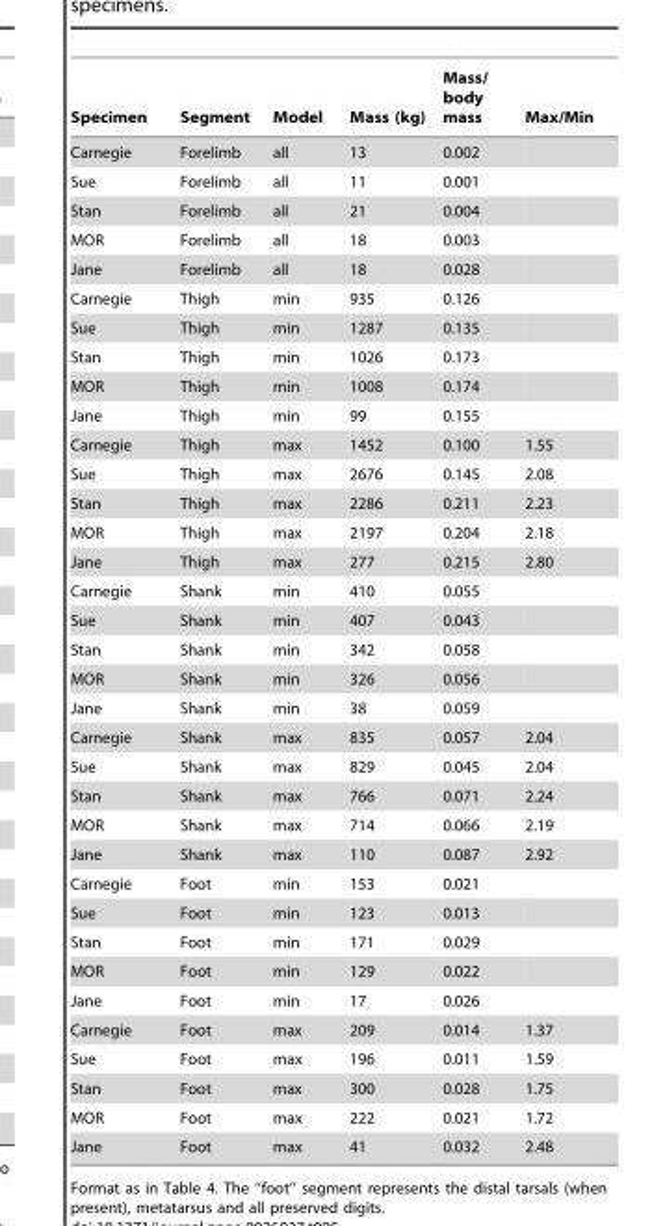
<table><thead><tr><td>Specimen</td><td>Segment</td><td>Model</td><td>Mass (kg)</td><td>Mass/ body mass</td><td>Max/Min</td></tr></thead><tbody><tr><td>Carnegie</td><td>Forelimb</td><td>all</td><td>13</td><td>0.002</td><td></td></tr><tr><td>Sue</td><td>Forelimb</td><td>all</td><td>11</td><td>0.001</td><td></td></tr><tr><td>Stan</td><td>Forelimb</td><td>all</td><td>21</td><td>0.004</td><td></td></tr><tr><td>MOR</td><td>Forelimb</td><td>all</td><td>18</td><td>0.003</td><td></td></tr><tr><td>Jane</td><td>Forelimb</td><td>all</td><td>18</td><td>0.028</td><td></td></tr><tr><td>Carnegie</td><td>Thigh</td><td>min</td><td>935</td><td>0.126</td><td></td></tr><tr><td>Sue</td><td>Thigh</td><td>min</td><td>1287</td><td>0.135</td><td></td></tr><tr><td>Stan</td><td>Thigh</td><td>min</td><td>1026</td><td>0.173</td><td></td></tr><tr><td>MOR</td><td>Thigh</td><td>min</td><td>1008</td><td>0.174</td><td></td></tr><tr><td>Jane</td><td>Thigh</td><td>min</td><td>99</td><td>0.155</td><td></td></tr><tr><td>Carnegie</td><td>Thigh</td><td>max</td><td>1452</td><td>0.100</td><td>1.55</td></tr><tr><td>Sue</td><td>Thigh</td><td>max</td><td>2676</td><td>0.145</td><td>2.08</td></tr><tr><td>Stan</td><td>Thigh</td><td>max</td><td>2286</td><td>0.211</td><td>2.23</td></tr><tr><td>MOR</td><td>Thigh</td><td>max</td><td>2197</td><td>0.204</td><td>2.18</td></tr><tr><td>Jane</td><td>Thigh</td><td>max</td><td>277</td><td>0.215</td><td>2.80</td></tr><tr><td>Carnegie</td><td>Shank</td><td>min</td><td>410</td><td>0.055</td><td></td></tr><tr><td>Sue</td><td>Shank</td><td>min</td><td>407</td><td>0.043</td><td></td></tr><tr><td>Stan</td><td>Shank</td><td>min</td><td>342</td><td>0.058</td><td></td></tr><tr><td>MOR</td><td>Shank</td><td>min</td><td>326</td><td>0.056</td><td></td></tr><tr><td>Jane</td><td>Shank</td><td>min</td><td>38</td><td>0.059</td><td></td></tr><tr><td>Carnegie</td><td>Shank</td><td>max</td><td>835</td><td>0.057</td><td>2.04</td></tr><tr><td>Sue</td><td>Shank</td><td>max</td><td>829</td><td>0.045</td><td>2.04</td></tr><tr><td>Stan</td><td>Shank</td><td>max</td><td>766</td><td>0.071</td><td>2.24</td></tr><tr><td>MOR</td><td>Shank</td><td>max</td><td>714</td><td>0.066</td><td>2.19</td></tr><tr><td>Jane</td><td>Shank</td><td>max</td><td>110</td><td>0.087</td><td>2.92</td></tr><tr><td>Carnegie</td><td>Foot</td><td>min</td><td>153</td><td>0.021</td><td></td></tr><tr><td>Sue</td><td>Foot</td><td>min</td><td>123</td><td>0.013</td><td></td></tr><tr><td>Stan</td><td>Foot</td><td>min</td><td>171</td><td>0.029</td><td></td></tr><tr><td>MOR</td><td>Foot</td><td>min</td><td>129</td><td>0.022</td><td></td></tr><tr><td>Jane</td><td>Foot</td><td>min</td><td>17</td><td>0.026</td><td></td></tr><tr><td>Carnegie</td><td>Foot</td><td>max</td><td>209</td><td>0.014</td><td>1.37</td></tr><tr><td>Sue</td><td>Foot</td><td>max</td><td>196</td><td>0.011</td><td>1.59</td></tr><tr><td>Stan</td><td>Foot</td><td>max</td><td>300</td><td>0.028</td><td>1.75</td></tr><tr><td>MOR</td><td>Foot</td><td>max</td><td>222</td><td>0.021</td><td>1.72</td></tr><tr><td>Jane</td><td>Foot</td><td>max</td><td>41</td><td>0.032</td><td>2.48</td></tr></tbody></table>